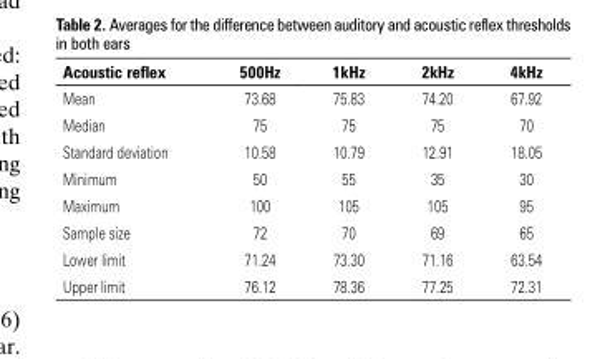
<table><thead><tr><td>Acoustic reflex</td><td>500Hz</td><td>1kHz</td><td>2kHz</td><td>4kHz</td></tr></thead><tbody><tr><td>Mean</td><td>73.68</td><td>75.83</td><td>74.20</td><td>67.92</td></tr><tr><td>Median</td><td>75</td><td>75</td><td>75</td><td>70</td></tr><tr><td>Standard deviation</td><td>10.58</td><td>10.79</td><td>12.91</td><td>18.05</td></tr><tr><td>Minimum</td><td>50</td><td>55</td><td>35</td><td>30</td></tr><tr><td>Maximum</td><td>100</td><td>105</td><td>105</td><td>95</td></tr><tr><td>Sample size</td><td>72</td><td>70</td><td>69</td><td>65</td></tr><tr><td>Lower limit</td><td>71.24</td><td>73.30</td><td>71.16</td><td>63.54</td></tr><tr><td>Upper limit</td><td>76.12</td><td>78.36</td><td>77.25</td><td>72.31</td></tr></tbody></table>